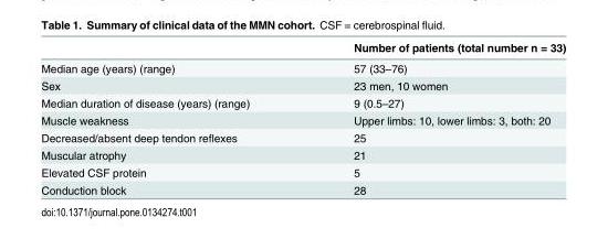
<table><thead><tr><td></td><td>Number of patients (total number n = 33)</td></tr></thead><tbody><tr><td>Median age (years) (range)</td><td>57 (33–76)</td></tr><tr><td>Sex</td><td>23 men, 10 women</td></tr><tr><td>Median duration of disease (years) (range)</td><td>9 (0.5–27)</td></tr><tr><td>Muscle weakness</td><td>Upper limbs: 10, lower limbs: 3, both: 20</td></tr><tr><td>Decreased/absent deep tendon reflexes</td><td>25</td></tr><tr><td>Muscular atrophy</td><td>21</td></tr><tr><td>Elevated CSF protein</td><td>5</td></tr><tr><td>Conduction block</td><td>28</td></tr></tbody></table>